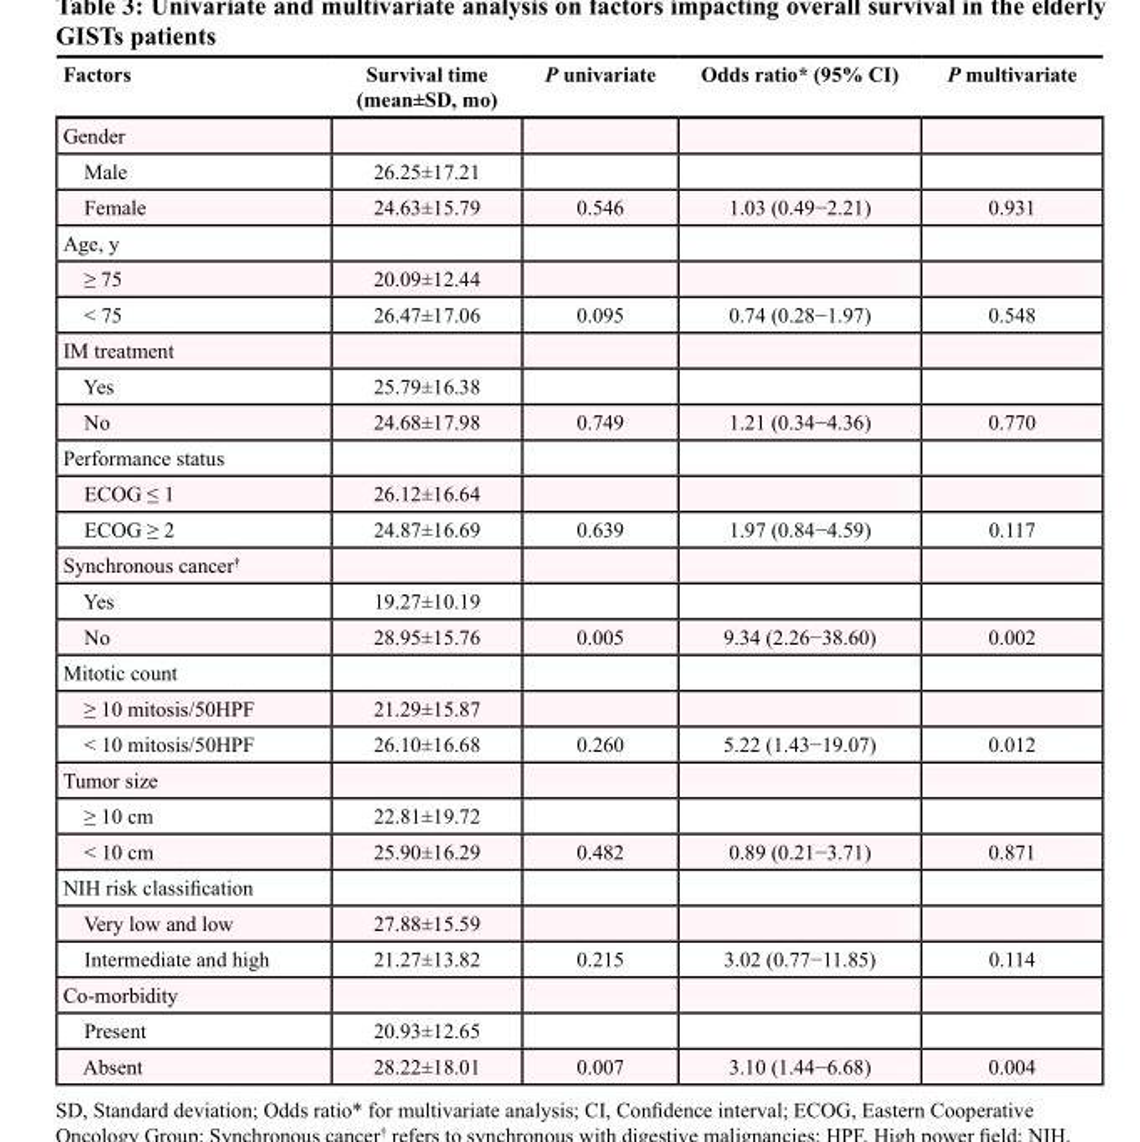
<table><thead><tr><td>Factors</td><td>Survival time (mean±SD, mo)</td><td>P univariate</td><td>Odds ratio* (95% CI)</td><td>P multivariate</td></tr></thead><tbody><tr><td colspan="5">Gender</td></tr><tr><td>Male</td><td>26.25±17.21</td><td></td><td></td><td></td></tr><tr><td>Female</td><td>24.63±15.79</td><td>0.546</td><td>1.03 (0.49−2.21)</td><td>0.931</td></tr><tr><td colspan="5">Age, y</td></tr><tr><td>≥ 75</td><td>20.09±12.44</td><td></td><td></td><td></td></tr><tr><td>&lt; 75</td><td>26.47±17.06</td><td>0.095</td><td>0.74 (0.28−1.97)</td><td>0.548</td></tr><tr><td colspan="5">IM treatment</td></tr><tr><td>Yes</td><td>25.79±16.38</td><td></td><td></td><td></td></tr><tr><td>No</td><td>24.68±17.98</td><td>0.749</td><td>1.21 (0.34−4.36)</td><td>0.770</td></tr><tr><td colspan="5">Performance status</td></tr><tr><td>ECOG ≤ 1</td><td>26.12±16.64</td><td></td><td></td><td></td></tr><tr><td>ECOG ≥ 2</td><td>24.87±16.69</td><td>0.639</td><td>1.97 (0.84−4.59)</td><td>0.117</td></tr><tr><td colspan="5">Synchronous cancer<sup>†</sup></td></tr><tr><td>Yes</td><td>19.27±10.19</td><td></td><td></td><td></td></tr><tr><td>No</td><td>28.95±15.76</td><td>0.005</td><td>9.34 (2.26−38.60)</td><td>0.002</td></tr><tr><td colspan="5">Mitotic count</td></tr><tr><td>≥ 10 mitosis/50HPF</td><td>21.29±15.87</td><td></td><td></td><td></td></tr><tr><td>&lt; 10 mitosis/50HPF</td><td>26.10±16.68</td><td>0.260</td><td>5.22 (1.43−19.07)</td><td>0.012</td></tr><tr><td colspan="5">Tumor size</td></tr><tr><td>≥ 10 cm</td><td>22.81±19.72</td><td></td><td></td><td></td></tr><tr><td>&lt; 10 cm</td><td>25.90±16.29</td><td>0.482</td><td>0.89 (0.21−3.71)</td><td>0.871</td></tr><tr><td colspan="5">NIH risk classification</td></tr><tr><td>Very low and low</td><td>27.88±15.59</td><td></td><td></td><td></td></tr><tr><td>Intermediate and high</td><td>21.27±13.82</td><td>0.215</td><td>3.02 (0.77−11.85)</td><td>0.114</td></tr><tr><td colspan="5">Co-morbidity</td></tr><tr><td>Present</td><td>20.93±12.65</td><td></td><td></td><td></td></tr><tr><td>Absent</td><td>28.22±18.01</td><td>0.007</td><td>3.10 (1.44−6.68)</td><td>0.004</td></tr></tbody></table>